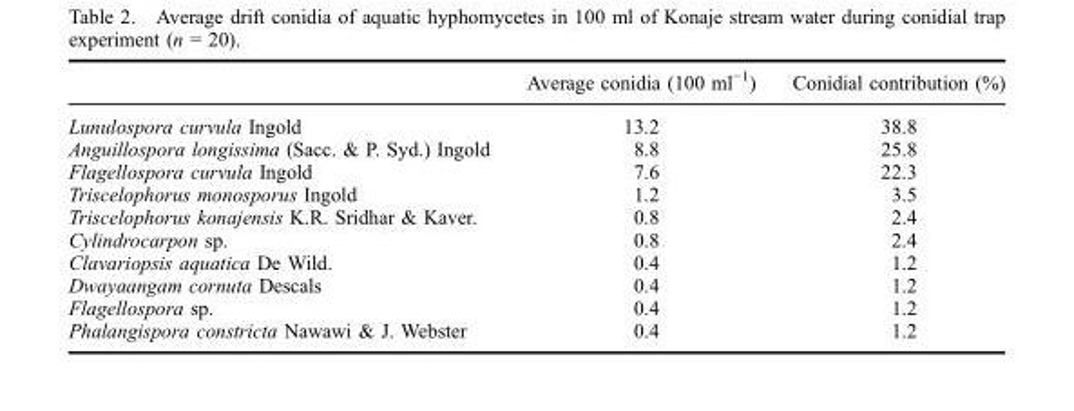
<table><thead><tr><td></td><td>Average conidia (100 ml<sup>−1</sup>)</td><td>Conidial contribution (%)</td></tr></thead><tbody><tr><td>Lunulospora curvula Ingold</td><td>13.2</td><td>38.8</td></tr><tr><td>Anguillospora longissima (Sacc. &amp; P. Syd.) Ingold</td><td>8.8</td><td>25.8</td></tr><tr><td>Flagellospora curvula Ingold</td><td>7.6</td><td>22.3</td></tr><tr><td>Triscelophorus monosporus Ingold</td><td>1.2</td><td>3.5</td></tr><tr><td>Triscelophorus konajensis K.R. Sridhar &amp; Kaver.</td><td>0.8</td><td>2.4</td></tr><tr><td>Cylindrocarpon sp.</td><td>0.8</td><td>2.4</td></tr><tr><td>Clavariopsis aquatica De Wild.</td><td>0.4</td><td>1.2</td></tr><tr><td>Dwayaangam cornuta Descals</td><td>0.4</td><td>1.2</td></tr><tr><td>Flagellospora sp.</td><td>0.4</td><td>1.2</td></tr><tr><td>Phalangispora constricta Nawawi &amp; J. Webster</td><td>0.4</td><td>1.2</td></tr></tbody></table>